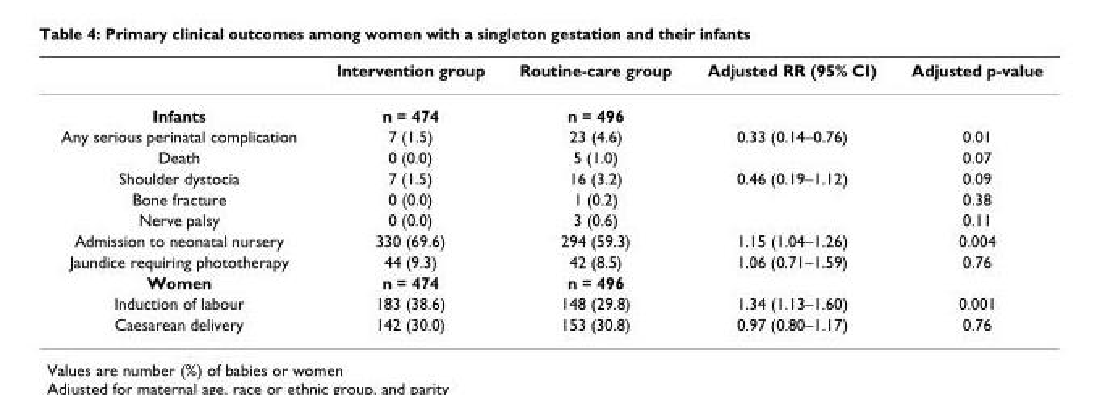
<table><thead><tr><td></td><td>Intervention group</td><td>Routine-care group</td><td>Adjusted RR (95% CI)</td><td>Adjusted p-value</td></tr></thead><tbody><tr><td>Infants</td><td>n = 474</td><td>n = 496</td><td></td><td></td></tr><tr><td>Any serious perinatal complication</td><td>7 (1.5)</td><td>23 (4.6)</td><td>0.33 (0.14–0.76)</td><td>0.01</td></tr><tr><td>Death</td><td>0 (0.0)</td><td>5 (1.0)</td><td></td><td>0.07</td></tr><tr><td>Shoulder dystocia</td><td>7 (1.5)</td><td>16 (3.2)</td><td>0.46 (0.19–1.12)</td><td>0.09</td></tr><tr><td>Bone fracture</td><td>0 (0.0)</td><td>1 (0.2)</td><td></td><td>0.38</td></tr><tr><td>Nerve palsy</td><td>0 (0.0)</td><td>3 (0.6)</td><td></td><td>0.11</td></tr><tr><td>Admission to neonatal nursery</td><td>330 (69.6)</td><td>294 (59.3)</td><td>1.15 (1.04–1.26)</td><td>0.004</td></tr><tr><td>Jaundice requiring phototherapy</td><td>44 (9.3)</td><td>42 (8.5)</td><td>1.06 (0.71–1.59)</td><td>0.76</td></tr><tr><td>Women</td><td>n = 474</td><td>n = 496</td><td></td><td></td></tr><tr><td>Induction of labour</td><td>183 (38.6)</td><td>148 (29.8)</td><td>1.34 (1.13–1.60)</td><td>0.001</td></tr><tr><td>Caesarean delivery</td><td>142 (30.0)</td><td>153 (30.8)</td><td>0.97 (0.80–1.17)</td><td>0.76</td></tr></tbody></table>